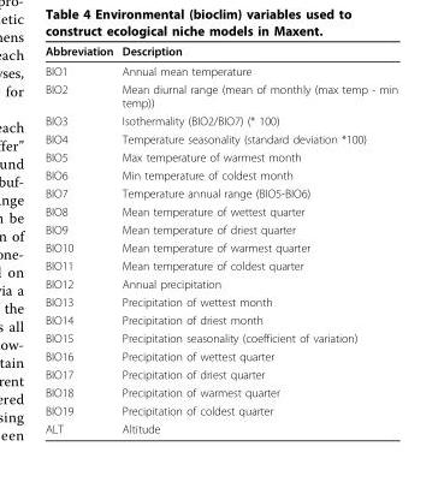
<table><thead><tr><td>Abbreviation</td><td>Description</td></tr></thead><tbody><tr><td>BIO1</td><td>Annual mean temperature</td></tr><tr><td>BIO2</td><td>Mean diurnal range (mean of monthly (max temp - min temp))</td></tr><tr><td>BIO3</td><td>Isothermality (BIO2/BIO7) (* 100)</td></tr><tr><td>BIO4</td><td>Temperature seasonality (standard deviation *100)</td></tr><tr><td>BIO5</td><td>Max temperature of warmest month</td></tr><tr><td>BIO6</td><td>Min temperature of coldest month</td></tr><tr><td>BIO7</td><td>Temperature annual range (BIO5-BIO6)</td></tr><tr><td>BIO8</td><td>Mean temperature of wettest quarter</td></tr><tr><td>BIO9</td><td>Mean temperature of driest quarter</td></tr><tr><td>BIO10</td><td>Mean temperature of warmest quarter</td></tr><tr><td>BIO11</td><td>Mean temperature of coldest quarter</td></tr><tr><td>BIO12</td><td>Annual precipitation</td></tr><tr><td>BIO13</td><td>Precipitation of wettest month</td></tr><tr><td>BIO14</td><td>Precipitation of driest month</td></tr><tr><td>BIO15</td><td>Precipitation seasonality (coefficient of variation)</td></tr><tr><td>BIO16</td><td>Precipitation of wettest quarter</td></tr><tr><td>BIO17</td><td>Precipitation of driest quarter</td></tr><tr><td>BIO18</td><td>Precipitation of warmest quarter</td></tr><tr><td>BIO19</td><td>Precipitation of coldest quarter</td></tr><tr><td>ALT</td><td>Altitude</td></tr></tbody></table>